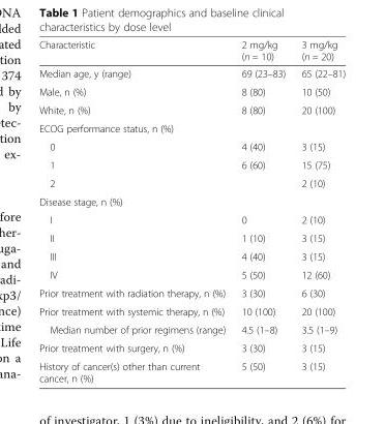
<table><thead><tr><td>Characteristic</td><td>2 mg/kg (n = 10)</td><td>3 mg/kg (n = 20)</td></tr></thead><tbody><tr><td>Median age, y (range)</td><td>69 (23–83)</td><td>65 (22–81)</td></tr><tr><td>Male, n (%)</td><td>8 (80)</td><td>10 (50)</td></tr><tr><td>White, n (%)</td><td>8 (80)</td><td>20 (100)</td></tr><tr><td colspan="3">ECOG performance status, n (%)</td></tr><tr><td>0</td><td>4 (40)</td><td>3 (15)</td></tr><tr><td>1</td><td>6 (60)</td><td>15 (75)</td></tr><tr><td>2</td><td></td><td>2 (10)</td></tr><tr><td colspan="3">Disease stage, n (%)</td></tr><tr><td>I</td><td>0</td><td>2 (10)</td></tr><tr><td>II</td><td>1 (10)</td><td>3 (15)</td></tr><tr><td>III</td><td>4 (40)</td><td>3 (15)</td></tr><tr><td>IV</td><td>5 (50)</td><td>12 (60)</td></tr><tr><td>Prior treatment with radiation therapy, n (%)</td><td>3 (30)</td><td>6 (30)</td></tr><tr><td>Prior treatment with systemic therapy, n (%)</td><td>10 (100)</td><td>20 (100)</td></tr><tr><td>Median number of prior regimens (range)</td><td>4.5 (1–8)</td><td>3.5 (1–9)</td></tr><tr><td>Prior treatment with surgery, n (%)</td><td>3 (30)</td><td>3 (15)</td></tr><tr><td>History of cancer(s) other than current cancer, n (%)</td><td>5 (50)</td><td>3 (15)</td></tr></tbody></table>